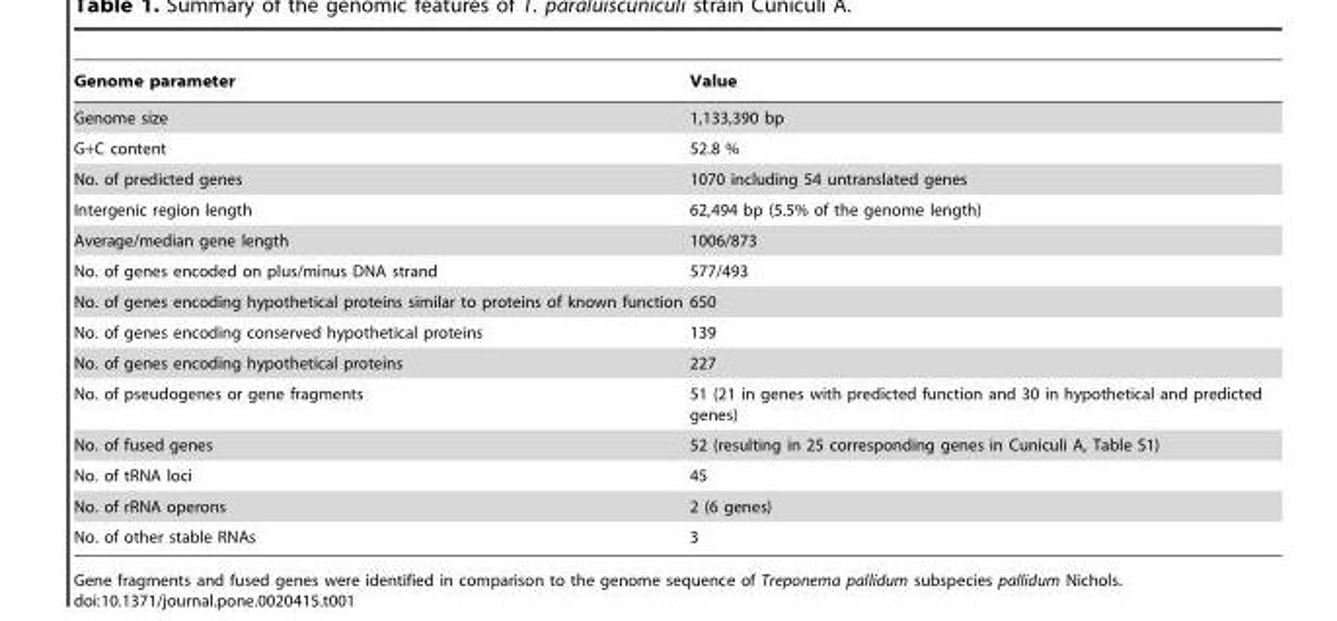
<table><thead><tr><td>Genome parameter</td><td>Value</td></tr></thead><tbody><tr><td>Genome size</td><td>1,133,390 bp</td></tr><tr><td>G+C content</td><td>52.8 %</td></tr><tr><td>No. of predicted genes</td><td>1070 including 54 untranslated genes</td></tr><tr><td>Intergenic region length</td><td>62,494 bp (5.5% of the genome length)</td></tr><tr><td>Average/median gene length</td><td>1006/873</td></tr><tr><td>No. of genes encoded on plus/minus DNA strand</td><td>577/493</td></tr><tr><td>No. of genes encoding hypothetical proteins similar to proteins of known function</td><td>650</td></tr><tr><td>No. of genes encoding conserved hypothetical proteins</td><td>139</td></tr><tr><td>No. of genes encoding hypothetical proteins</td><td>227</td></tr><tr><td>No. of pseudogenes or gene fragments</td><td>51 (21 in genes with predicted function and 30 in hypothetical and predicted genes)</td></tr><tr><td>No. of fused genes</td><td>52 (resulting in 25 corresponding genes in Cuniculi A, Table S1)</td></tr><tr><td>No. of tRNA loci</td><td>45</td></tr><tr><td>No. of rRNA operons</td><td>2 (6 genes)</td></tr><tr><td>No. of other stable RNAs</td><td>3</td></tr></tbody></table>